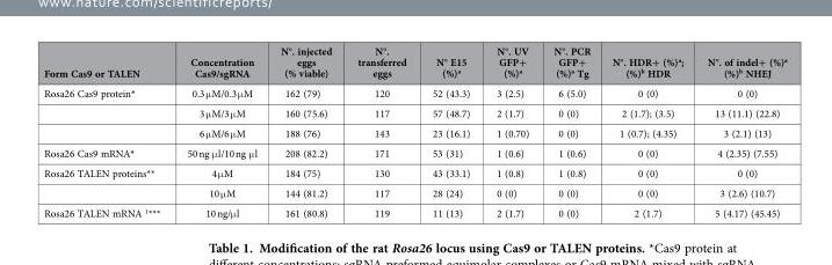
<table><thead><tr><td>Form Cas9 or TALEN</td><td>Concentration Cas9/sgRNA</td><td>N°. injected eggs (% viable)</td><td>N°. transferred eggs</td><td>N° E15 (%)<sup>a</sup></td><td>N°. UV GFP+ (%)<sup>a</sup></td><td>N°. PCR GFP+ (%)<sup>a</sup> Tg</td><td>N°. HDR+ (%)<sup>a</sup>; (%)<sup>b</sup> HDR</td><td>N°. of indel+ (%)<sup>a</sup> (%)<sup>b</sup> NHEJ</td></tr></thead><tbody><tr><td rowspan="3">Rosa26 Cas9 protein*</td><td>0.3 μ M/0.3 μ M</td><td>162 (79)</td><td>120</td><td>52 (43.3)</td><td>3 (2.5)</td><td>6 (5.0)</td><td>0 (0)</td><td>0 (0)</td></tr><tr><td>3 μ M/3 μ M</td><td>160 (75.6)</td><td>117</td><td>57 (48.7)</td><td>2 (1.7)</td><td>0 (0)</td><td>2 (1.7); (3.5)</td><td>13 (11.1) (22.8)</td></tr><tr><td>6 μ M/6 μ M</td><td>188 (76)</td><td>143</td><td>23 (16.1)</td><td>1 (0.70)</td><td>0 (0)</td><td>1 (0.7); (4.35)</td><td>3 (2.1) (13)</td></tr><tr><td>Rosa26 Cas9 mRNA*</td><td>50 ng μ l/10 ng μ l</td><td>208 (82.2)</td><td>171</td><td>53 (31)</td><td>1 (0.6)</td><td>1 (0.6)</td><td>0 (0)</td><td>4 (2.35) (7.55)</td></tr><tr><td rowspan="2">Rosa26 TALEN proteins**</td><td>4 μ M</td><td>184 (75)</td><td>130</td><td>43 (33.1)</td><td>1 (0.8)</td><td>1 (0.8)</td><td>0 (0)</td><td>0 (0)</td></tr><tr><td>10 μ M</td><td>144 (81.2)</td><td>117</td><td>28 (24)</td><td>0 (0)</td><td>0 (0)</td><td>0 (0)</td><td>3 (2.6) (10.7)</td></tr><tr><td>Rosa26 TALEN mRNA 1***</td><td>10 ng/μ l</td><td>161 (80.8)</td><td>119</td><td>11 (13)</td><td>2 (1.7)</td><td>0 (0)</td><td>2 (1.7)</td><td>5 (4.17) (45.45)</td></tr></tbody></table>